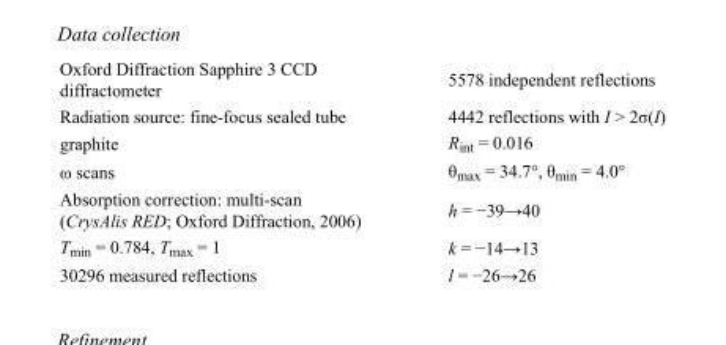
<table><tbody><tr><td>Oxford Diffraction Sapphire 3 CCD diffractometer</td><td>5578 independent reflections</td></tr><tr><td>Radiation source: fine-focus sealed tube</td><td>4442 reflections with I &gt; 2σ(I)</td></tr><tr><td>graphite</td><td>R<sub>int</sub> = 0.016</td></tr><tr><td>ω scans</td><td>θ<sub>max</sub> = 34.7°, θ<sub>min</sub> = 4.0°</td></tr><tr><td>Absorption correction: multi-scan (CrysAlis RED; Oxford Diffraction, 2006)</td><td>h = −39→40</td></tr><tr><td>T<sub>min</sub> = 0.784, T<sub>max</sub> = 1</td><td>k = −14→13</td></tr><tr><td>30296 measured reflections</td><td>l = −26→26</td></tr></tbody></table>